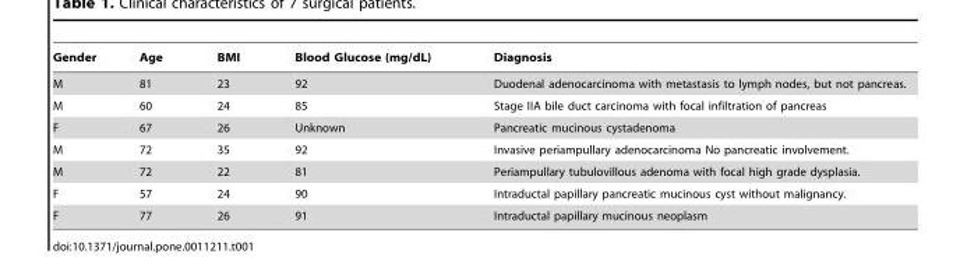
<table><thead><tr><td>Gender</td><td>Age</td><td>BMI</td><td>Blood Glucose (mg/dL)</td><td>Diagnosis</td></tr></thead><tbody><tr><td>M</td><td>81</td><td>23</td><td>92</td><td>Duodenal adenocarcinoma with metastasis to lymph nodes, but not pancreas.</td></tr><tr><td>M</td><td>60</td><td>24</td><td>85</td><td>Stage IIA bile duct carcinoma with focal infiltration of pancreas</td></tr><tr><td>F</td><td>67</td><td>26</td><td>Unknown</td><td>Pancreatic mucinous cystadenoma</td></tr><tr><td>M</td><td>72</td><td>35</td><td>92</td><td>Invasive periampullary adenocarcinoma No pancreatic involvement.</td></tr><tr><td>M</td><td>72</td><td>22</td><td>81</td><td>Periampullary tubulovillous adenoma with focal high grade dysplasia.</td></tr><tr><td>F</td><td>57</td><td>24</td><td>90</td><td>Intraductal papillary pancreatic mucinous cyst without malignancy.</td></tr><tr><td>F</td><td>77</td><td>26</td><td>91</td><td>Intraductal papillary mucinous neoplasm</td></tr></tbody></table>